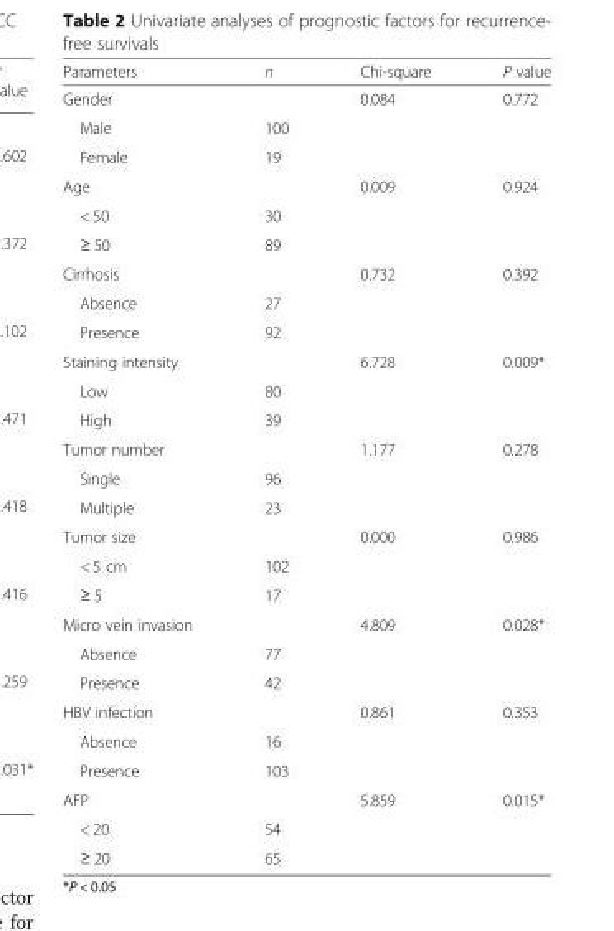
<table><thead><tr><td>Parameters</td><td>n</td><td>Chi-square</td><td>P value</td></tr></thead><tbody><tr><td>Gender</td><td></td><td>0.084</td><td>0.772</td></tr><tr><td>Male</td><td>100</td><td></td><td></td></tr><tr><td>Female</td><td>19</td><td></td><td></td></tr><tr><td>Age</td><td></td><td>0.009</td><td>0.924</td></tr><tr><td>&lt; 50</td><td>30</td><td></td><td></td></tr><tr><td>≥ 50</td><td>89</td><td></td><td></td></tr><tr><td>Cirrhosis</td><td></td><td>0.732</td><td>0.392</td></tr><tr><td>Absence</td><td>27</td><td></td><td></td></tr><tr><td>Presence</td><td>92</td><td></td><td></td></tr><tr><td>Staining intensity</td><td></td><td>6.728</td><td>0.009*</td></tr><tr><td>Low</td><td>80</td><td></td><td></td></tr><tr><td>High</td><td>39</td><td></td><td></td></tr><tr><td>Tumor number</td><td></td><td>1.177</td><td>0.278</td></tr><tr><td>Single</td><td>96</td><td></td><td></td></tr><tr><td>Multiple</td><td>23</td><td></td><td></td></tr><tr><td>Tumor size</td><td></td><td>0.000</td><td>0.986</td></tr><tr><td>&lt; 5 cm</td><td>102</td><td></td><td></td></tr><tr><td>≥ 5</td><td>17</td><td></td><td></td></tr><tr><td>Micro vein invasion</td><td></td><td>4.809</td><td>0.028*</td></tr><tr><td>Absence</td><td>77</td><td></td><td></td></tr><tr><td>Presence</td><td>42</td><td></td><td></td></tr><tr><td>HBV infection</td><td></td><td>0.861</td><td>0.353</td></tr><tr><td>Absence</td><td>16</td><td></td><td></td></tr><tr><td>Presence</td><td>103</td><td></td><td></td></tr><tr><td>AFP</td><td></td><td>5.859</td><td>0.015*</td></tr><tr><td>&lt; 20</td><td>54</td><td></td><td></td></tr><tr><td>≥ 20</td><td>65</td><td></td><td></td></tr></tbody></table>